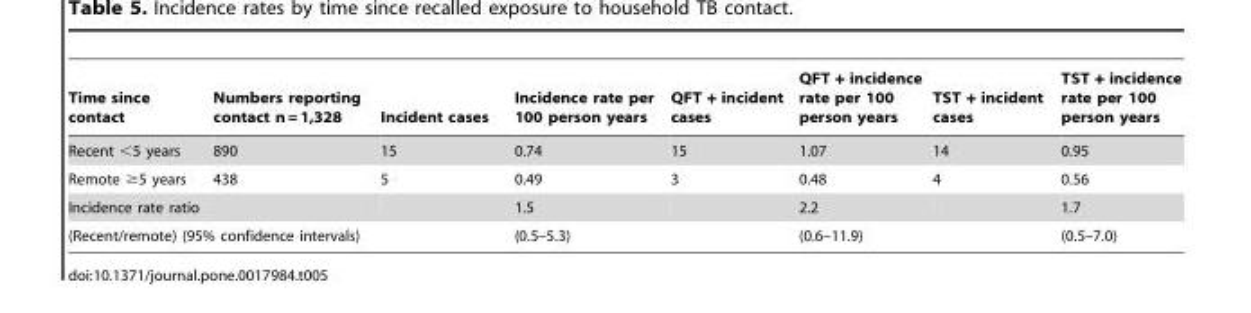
<table><thead><tr><td>Time since contact</td><td>Numbers reporting contact n = 1,328</td><td>Incident cases</td><td>Incidence rate per 100 person years</td><td>QFT + incident cases</td><td>QFT + incidence rate per 100 person years</td><td>TST + incident cases</td><td>TST + incidence rate per 100 person years</td></tr></thead><tbody><tr><td>Recent &lt;5 years</td><td>890</td><td>15</td><td>0.74</td><td>15</td><td>1.07</td><td>14</td><td>0.95</td></tr><tr><td>Remote ≥5 years</td><td>438</td><td>5</td><td>0.49</td><td>3</td><td>0.48</td><td>4</td><td>0.56</td></tr><tr><td colspan="2">Incidence rate ratio</td><td></td><td>1.5</td><td></td><td>2.2</td><td></td><td>1.7</td></tr><tr><td colspan="2">(Recent/remote) (95% confidence intervals)</td><td></td><td>(0.5–5.3)</td><td></td><td>(0.6–11.9)</td><td></td><td>(0.5–7.0)</td></tr></tbody></table>